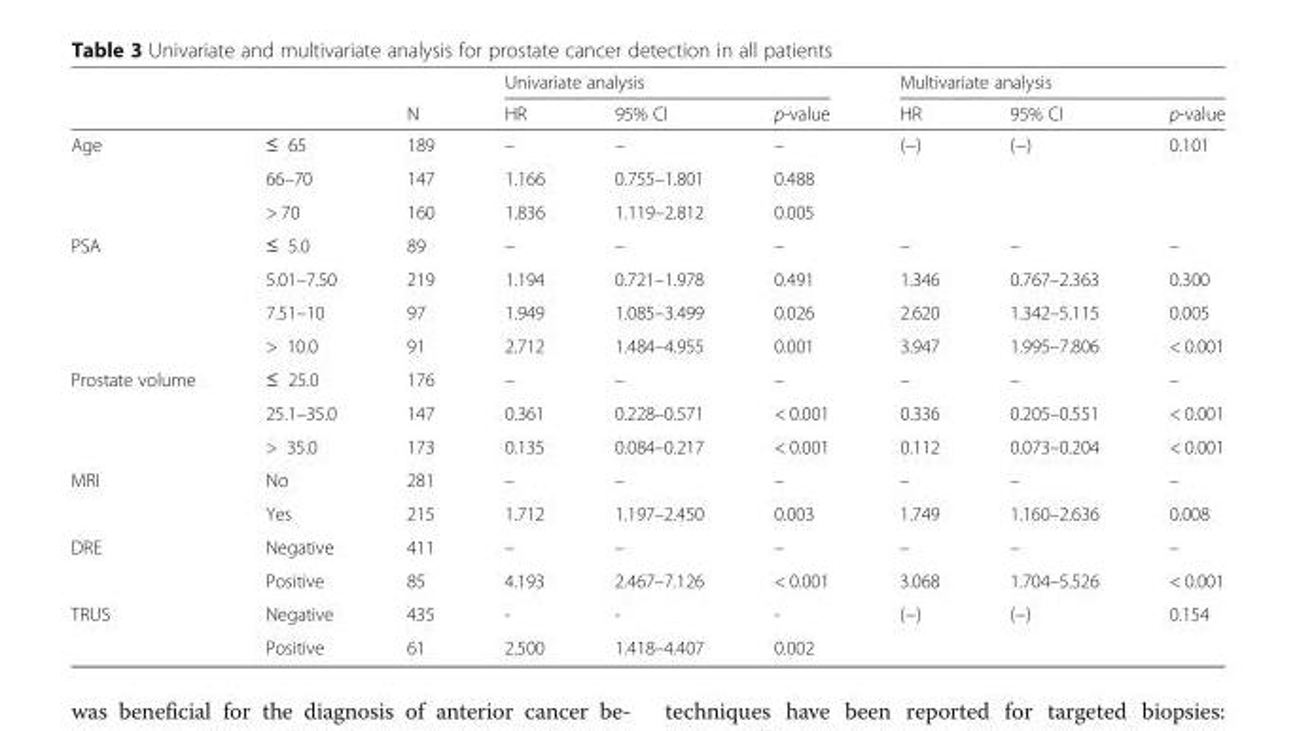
<table><thead><tr><td rowspan="2"></td><td rowspan="2"></td><td rowspan="2">N</td><td colspan="3">Univariate analysis</td><td colspan="3">Multivariate analysis</td></tr><tr><td>HR</td><td>95% CI</td><td>p-value</td><td>HR</td><td>95% CI</td><td>p-value</td></tr></thead><tbody><tr><td rowspan="3">Age</td><td>≤ 65</td><td>189</td><td>–</td><td>–</td><td>–</td><td>(−)</td><td>(−)</td><td>0.101</td></tr><tr><td>66–70</td><td>147</td><td>1.166</td><td>0.755–1.801</td><td>0.488</td><td></td><td></td><td></td></tr><tr><td>&gt; 70</td><td>160</td><td>1.836</td><td>1.119–2.812</td><td>0.005</td><td></td><td></td><td></td></tr><tr><td rowspan="4">PSA</td><td>≤ 5.0</td><td>89</td><td>–</td><td>–</td><td>–</td><td>–</td><td>–</td><td>–</td></tr><tr><td>5.01–7.50</td><td>219</td><td>1.194</td><td>0.721–1.978</td><td>0.491</td><td>1.346</td><td>0.767–2.363</td><td>0.300</td></tr><tr><td>7.51–10</td><td>97</td><td>1.949</td><td>1.085–3.499</td><td>0.026</td><td>2.620</td><td>1.342–5.115</td><td>0.005</td></tr><tr><td>&gt; 10.0</td><td>91</td><td>2.712</td><td>1.484–4.955</td><td>0.001</td><td>3.947</td><td>1.995–7.806</td><td>&lt; 0.001</td></tr><tr><td rowspan="3">Prostate volume</td><td>≤ 25.0</td><td>176</td><td>–</td><td>–</td><td>–</td><td>–</td><td>–</td><td>–</td></tr><tr><td>25.1–35.0</td><td>147</td><td>0.361</td><td>0.228–0.571</td><td>&lt; 0.001</td><td>0.336</td><td>0.205–0.551</td><td>&lt; 0.001</td></tr><tr><td>&gt; 35.0</td><td>173</td><td>0.135</td><td>0.084–0.217</td><td>&lt; 0.001</td><td>0.112</td><td>0.073–0.204</td><td>&lt; 0.001</td></tr><tr><td rowspan="2">MRI</td><td>No</td><td>281</td><td>–</td><td>–</td><td>–</td><td>–</td><td>–</td><td>–</td></tr><tr><td>Yes</td><td>215</td><td>1.712</td><td>1.197–2.450</td><td>0.003</td><td>1.749</td><td>1.160–2.636</td><td>0.008</td></tr><tr><td rowspan="2">DRE</td><td>Negative</td><td>411</td><td>–</td><td>–</td><td>–</td><td>–</td><td>–</td><td>–</td></tr><tr><td>Positive</td><td>85</td><td>4.193</td><td>2.467–7.126</td><td>&lt; 0.001</td><td>3.068</td><td>1.704–5.526</td><td>&lt; 0.001</td></tr><tr><td rowspan="2">TRUS</td><td>Negative</td><td>435</td><td>-</td><td>-</td><td>-</td><td>(−)</td><td>(−)</td><td>0.154</td></tr><tr><td>Positive</td><td>61</td><td>2.500</td><td>1.418–4.407</td><td>0.002</td><td></td><td></td><td></td></tr></tbody></table>